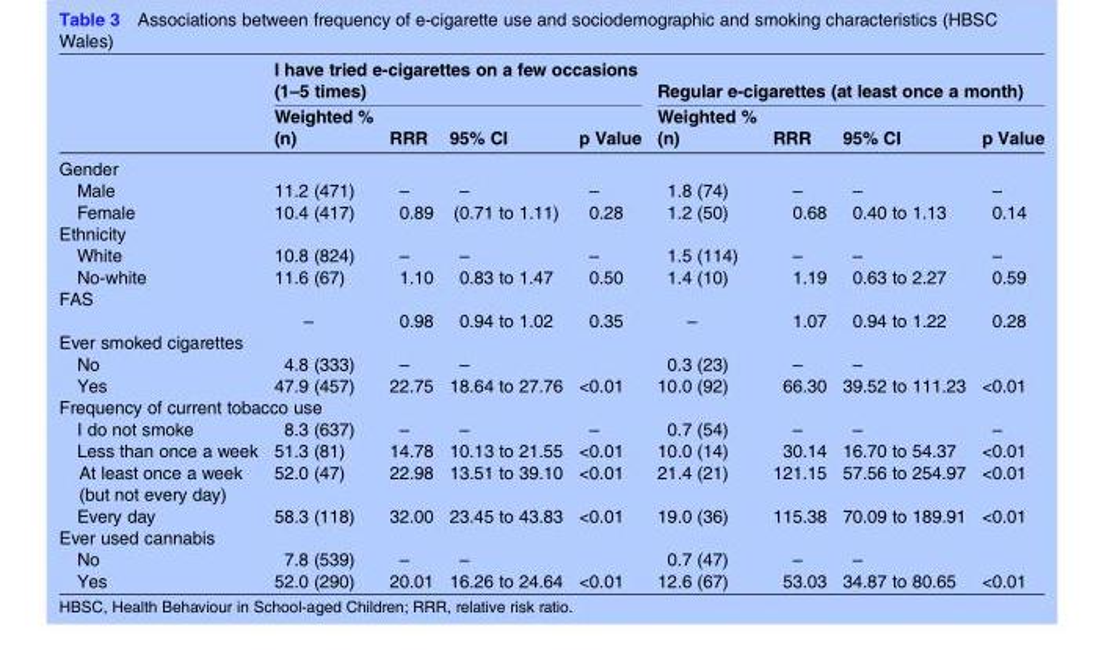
<table><thead><tr><td rowspan="2"></td><td colspan="4">I have tried e-cigarettes on a few occasions (1–5 times)</td><td colspan="4">Regular e-cigarettes (at least once a month)</td></tr><tr><td>Weighted % (n)</td><td>RRR</td><td>95% CI</td><td>p Value</td><td>Weighted % (n)</td><td>RRR</td><td>95% CI</td><td>p Value</td></tr></thead><tbody><tr><td colspan="9">Gender</td></tr><tr><td>Male</td><td>11.2 (471)</td><td>–</td><td>–</td><td>–</td><td>1.8 (74)</td><td>–</td><td>–</td><td>–</td></tr><tr><td>Female</td><td>10.4 (417)</td><td>0.89</td><td>(0.71 to 1.11)</td><td>0.28</td><td>1.2 (50)</td><td>0.68</td><td>0.40 to 1.13</td><td>0.14</td></tr><tr><td colspan="9">Ethnicity</td></tr><tr><td>White</td><td>10.8 (824)</td><td>–</td><td>–</td><td>–</td><td>1.5 (114)</td><td>–</td><td>–</td><td>–</td></tr><tr><td>No-white</td><td>11.6 (67)</td><td>1.10</td><td>0.83 to 1.47</td><td>0.50</td><td>1.4 (10)</td><td>1.19</td><td>0.63 to 2.27</td><td>0.59</td></tr><tr><td colspan="9">FAS</td></tr><tr><td></td><td>–</td><td>0.98</td><td>0.94 to 1.02</td><td>0.35</td><td>–</td><td>1.07</td><td>0.94 to 1.22</td><td>0.28</td></tr><tr><td colspan="9">Ever smoked cigarettes</td></tr><tr><td>No</td><td>4.8 (333)</td><td>–</td><td>–</td><td></td><td>0.3 (23)</td><td>–</td><td>–</td><td></td></tr><tr><td>Yes</td><td>47.9 (457)</td><td>22.75</td><td>18.64 to 27.76</td><td>&lt;0.01</td><td>10.0 (92)</td><td>66.30</td><td>39.52 to 111.23</td><td>&lt;0.01</td></tr><tr><td colspan="9">Frequency of current tobacco use</td></tr><tr><td>I do not smoke</td><td>8.3 (637)</td><td>–</td><td>–</td><td>–</td><td>0.7 (54)</td><td>–</td><td>–</td><td>–</td></tr><tr><td>Less than once a week</td><td>51.3 (81)</td><td>14.78</td><td>10.13 to 21.55</td><td>&lt;0.01</td><td>10.0 (14)</td><td>30.14</td><td>16.70 to 54.37</td><td>&lt;0.01</td></tr><tr><td>At least once a week (but not every day)</td><td>52.0 (47)</td><td>22.98</td><td>13.51 to 39.10</td><td>&lt;0.01</td><td>21.4 (21)</td><td>121.15</td><td>57.56 to 254.97</td><td>&lt;0.01</td></tr><tr><td>Every day</td><td>58.3 (118)</td><td>32.00</td><td>23.45 to 43.83</td><td>&lt;0.01</td><td>19.0 (36)</td><td>115.38</td><td>70.09 to 189.91</td><td>&lt;0.01</td></tr><tr><td colspan="9">Ever used cannabis</td></tr><tr><td>No</td><td>7.8 (539)</td><td>–</td><td>–</td><td></td><td>0.7 (47)</td><td>–</td><td>–</td><td></td></tr><tr><td>Yes</td><td>52.0 (290)</td><td>20.01</td><td>16.26 to 24.64</td><td>&lt;0.01</td><td>12.6 (67)</td><td>53.03</td><td>34.87 to 80.65</td><td>&lt;0.01</td></tr></tbody></table>